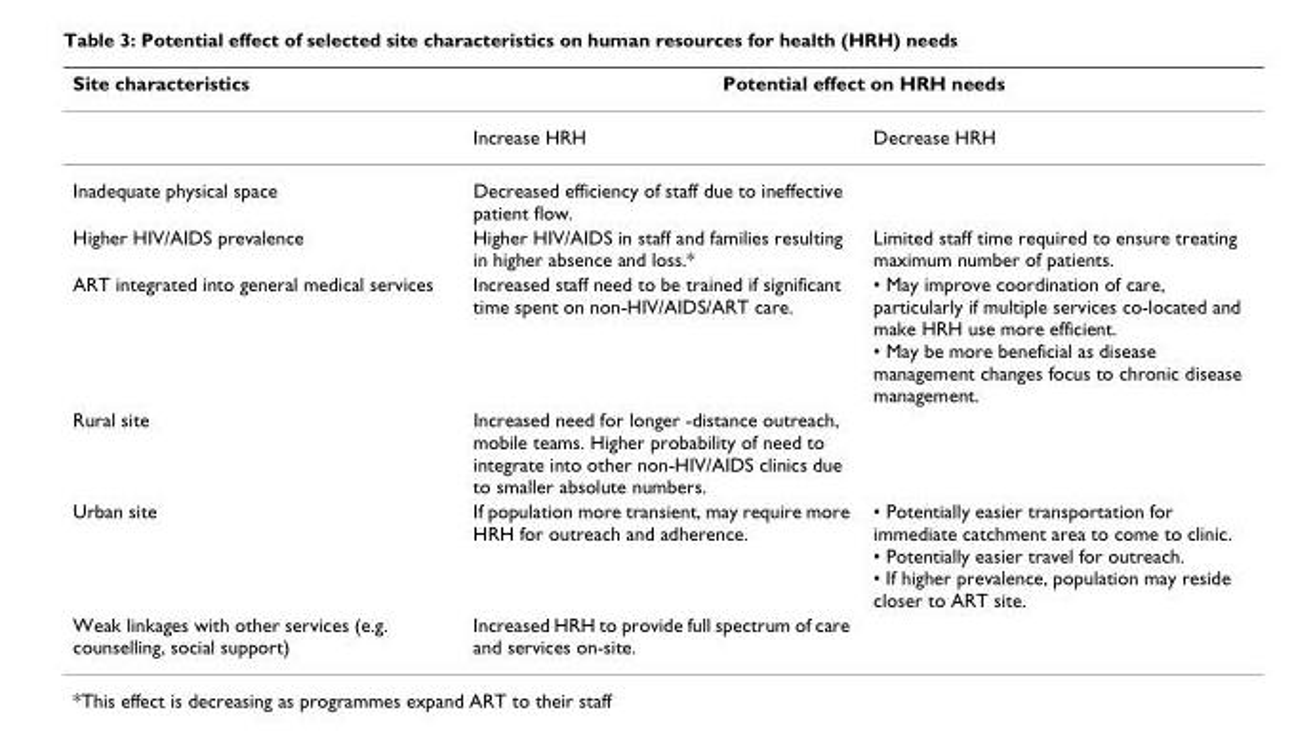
<table><thead><tr><td rowspan="2">Site characteristics</td><td colspan="2">Potential effect on HRH needs</td></tr><tr><td>Increase HRH</td><td>Decrease HRH</td></tr></thead><tbody><tr><td>Inadequate physical space</td><td>Decreased efficiency of staff due to ineffective patient flow.</td><td></td></tr><tr><td>Higher HIV/AIDS prevalence</td><td>Higher HIV/AIDS in staff and families resulting in higher absence and loss.*</td><td>Limited staff time required to ensure treating maximum number of patients.</td></tr><tr><td>ART integrated into general medical services</td><td>Increased staff need to be trained if significant time spent on non-HIV/AIDS/ART care.</td><td>• May improve coordination of care, particularly if multiple services co-located and make HRH use more efficient. • May be more beneficial as disease management changes focus to chronic disease management.</td></tr><tr><td>Rural site</td><td>Increased need for longer -distance outreach, mobile teams. Higher probability of need to integrate into other non-HIV/AIDS clinics due to smaller absolute numbers.</td><td></td></tr><tr><td>Urban site</td><td>If population more transient, may require more HRH for outreach and adherence.</td><td>• Potentially easier transportation for immediate catchment area to come to clinic. • Potentially easier travel for outreach. • If higher prevalence, population may reside closer to ART site.</td></tr><tr><td>Weak linkages with other services (e.g. counselling, social support)</td><td>Increased HRH to provide full spectrum of care and services on-site.</td><td></td></tr></tbody></table>